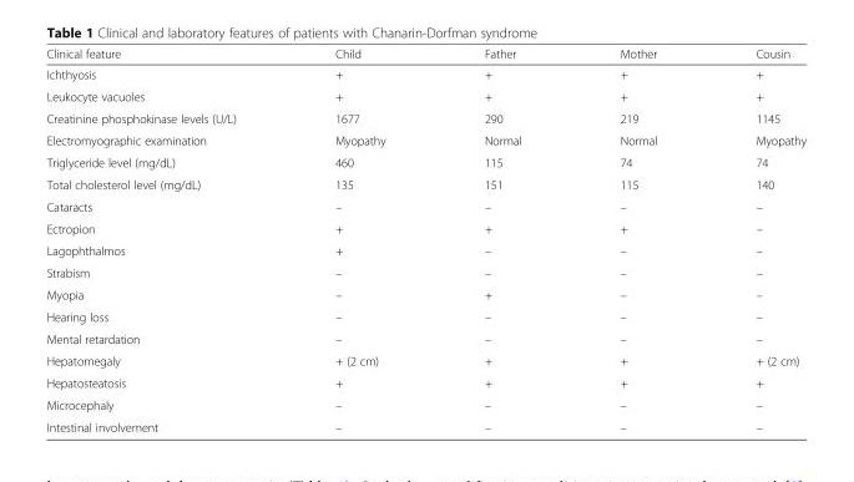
<table><thead><tr><td>Clinical feature</td><td>Child</td><td>Father</td><td>Mother</td><td>Cousin</td></tr></thead><tbody><tr><td>Ichthyosis</td><td>+</td><td>+</td><td>+</td><td>+</td></tr><tr><td>Leukocyte vacuoles</td><td>+</td><td>+</td><td>+</td><td>+</td></tr><tr><td>Creatinine phosphokinase levels (U/L)</td><td>1677</td><td>290</td><td>219</td><td>1145</td></tr><tr><td>Electromyographic examination</td><td>Myopathy</td><td>Normal</td><td>Normal</td><td>Myopathy</td></tr><tr><td>Triglyceride level (mg/dL)</td><td>460</td><td>115</td><td>74</td><td>74</td></tr><tr><td>Total cholesterol level (mg/dL)</td><td>135</td><td>151</td><td>115</td><td>140</td></tr><tr><td>Cataracts</td><td>–</td><td>–</td><td>–</td><td>–</td></tr><tr><td>Ectropion</td><td>+</td><td>+</td><td>+</td><td>–</td></tr><tr><td>Lagophthalmos</td><td>+</td><td>–</td><td>–</td><td>–</td></tr><tr><td>Strabism</td><td>–</td><td>–</td><td>–</td><td>–</td></tr><tr><td>Myopia</td><td>–</td><td>+</td><td>–</td><td>–</td></tr><tr><td>Hearing loss</td><td>–</td><td>–</td><td>–</td><td>–</td></tr><tr><td>Mental retardation</td><td>–</td><td>–</td><td>–</td><td>–</td></tr><tr><td>Hepatomegaly</td><td>+ (2 cm)</td><td>+</td><td>+</td><td>+ (2 cm)</td></tr><tr><td>Hepatosteatosis</td><td>+</td><td>+</td><td>+</td><td>+</td></tr><tr><td>Microcephaly</td><td>–</td><td>–</td><td>–</td><td>–</td></tr><tr><td>Intestinal involvement</td><td>–</td><td>–</td><td>–</td><td>–</td></tr></tbody></table>